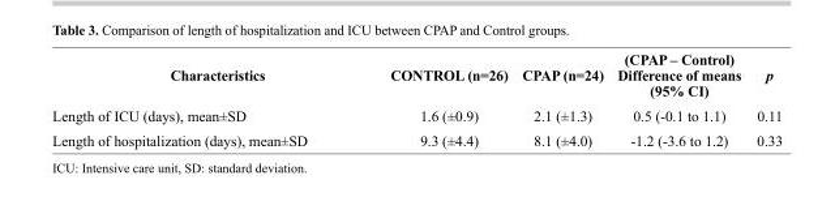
<table><thead><tr><td>Characteristics</td><td>CONTROL (n=26)</td><td>CPAP (n=24)</td><td>(CPAP – Control) Difference of means (95% CI)</td><td>p</td></tr></thead><tbody><tr><td>Length of ICU (days), mean±SD</td><td>1.6 (±0.9)</td><td>2.1 (±1.3)</td><td>0.5 (-0.1 to 1.1)</td><td>0.11</td></tr><tr><td>Length of hospitalization (days), mean±SD</td><td>9.3 (±4.4)</td><td>8.1 (±4.0)</td><td>-1.2 (-3.6 to 1.2)</td><td>0.33</td></tr></tbody></table>